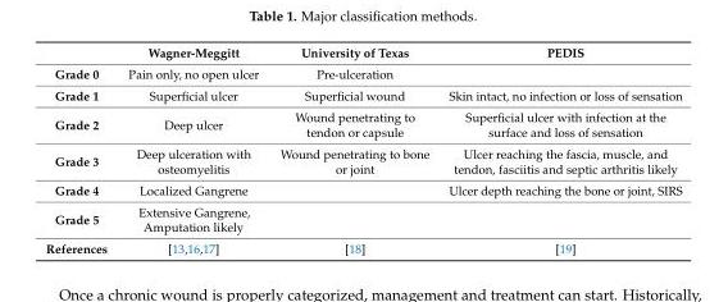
<table><thead><tr><td></td><td>Wagner-Meggitt</td><td>University of Texas</td><td>PEDIS</td></tr></thead><tbody><tr><td>Grade 0</td><td>Pain only, no open ulcer</td><td>Pre-ulceration</td><td></td></tr><tr><td>Grade 1</td><td>Superficial ulcer</td><td>Superficial wound</td><td>Skin intact, no infection or loss of sensation</td></tr><tr><td>Grade 2</td><td>Deep ulcer</td><td>Wound penetrating to tendon or capsule</td><td>Superficial ulcer with infection at the surface and loss of sensation</td></tr><tr><td>Grade 3</td><td>Deep ulceration with osteomyelitis</td><td>Wound penetrating to bone or joint</td><td>Ulcer reaching the fascia, muscle, and tendon, fasciitis and septic arthritis likely</td></tr><tr><td>Grade 4</td><td>Localized Gangrene</td><td></td><td>Ulcer depth reaching the bone or joint, SIRS</td></tr><tr><td>Grade 5</td><td>Extensive Gangrene, Amputation likely</td><td></td><td></td></tr><tr><td>References</td><td>[13,16,17]</td><td>[18]</td><td>[19]</td></tr></tbody></table>